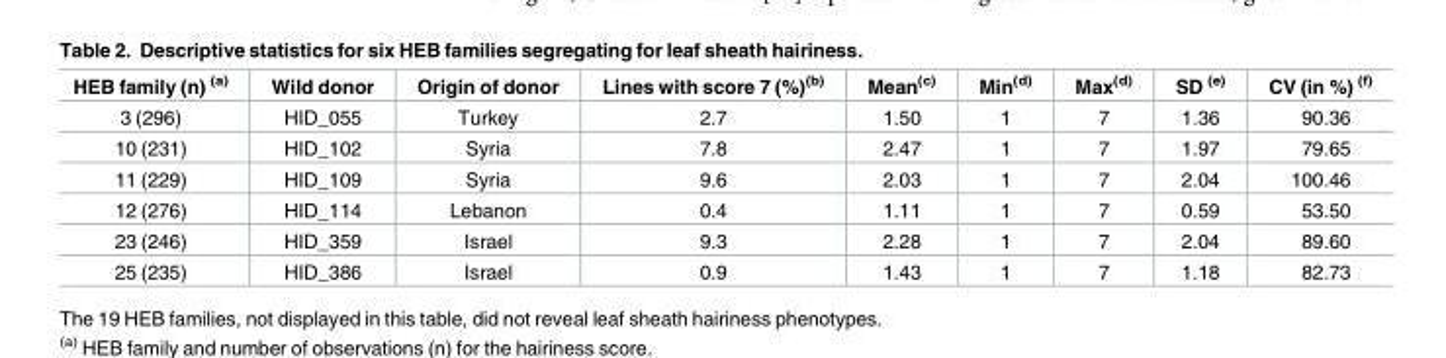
<table><thead><tr><td>HEB family (n) <sup>(a)</sup></td><td>Wild donor</td><td>Origin of donor</td><td>Lines with score 7 (%)<sup>(b)</sup></td><td>Mean<sup>(c)</sup></td><td>Min<sup>(d)</sup></td><td>Max<sup>(d)</sup></td><td>SD <sup>(e)</sup></td><td>CV (in %) <sup>(f)</sup></td></tr></thead><tbody><tr><td>3 (296)</td><td>HID_055</td><td>Turkey</td><td>2.7</td><td>1.50</td><td>1</td><td>7</td><td>1.36</td><td>90.36</td></tr><tr><td>10 (231)</td><td>HID_102</td><td>Syria</td><td>7.8</td><td>2.47</td><td>1</td><td>7</td><td>1.97</td><td>79.65</td></tr><tr><td>11 (229)</td><td>HID_109</td><td>Syria</td><td>9.6</td><td>2.03</td><td>1</td><td>7</td><td>2.04</td><td>100.46</td></tr><tr><td>12 (276)</td><td>HID_114</td><td>Lebanon</td><td>0.4</td><td>1.11</td><td>1</td><td>7</td><td>0.59</td><td>53.50</td></tr><tr><td>23 (246)</td><td>HID_359</td><td>Israel</td><td>9.3</td><td>2.28</td><td>1</td><td>7</td><td>2.04</td><td>89.60</td></tr><tr><td>25 (235)</td><td>HID_386</td><td>Israel</td><td>0.9</td><td>1.43</td><td>1</td><td>7</td><td>1.18</td><td>82.73</td></tr></tbody></table>